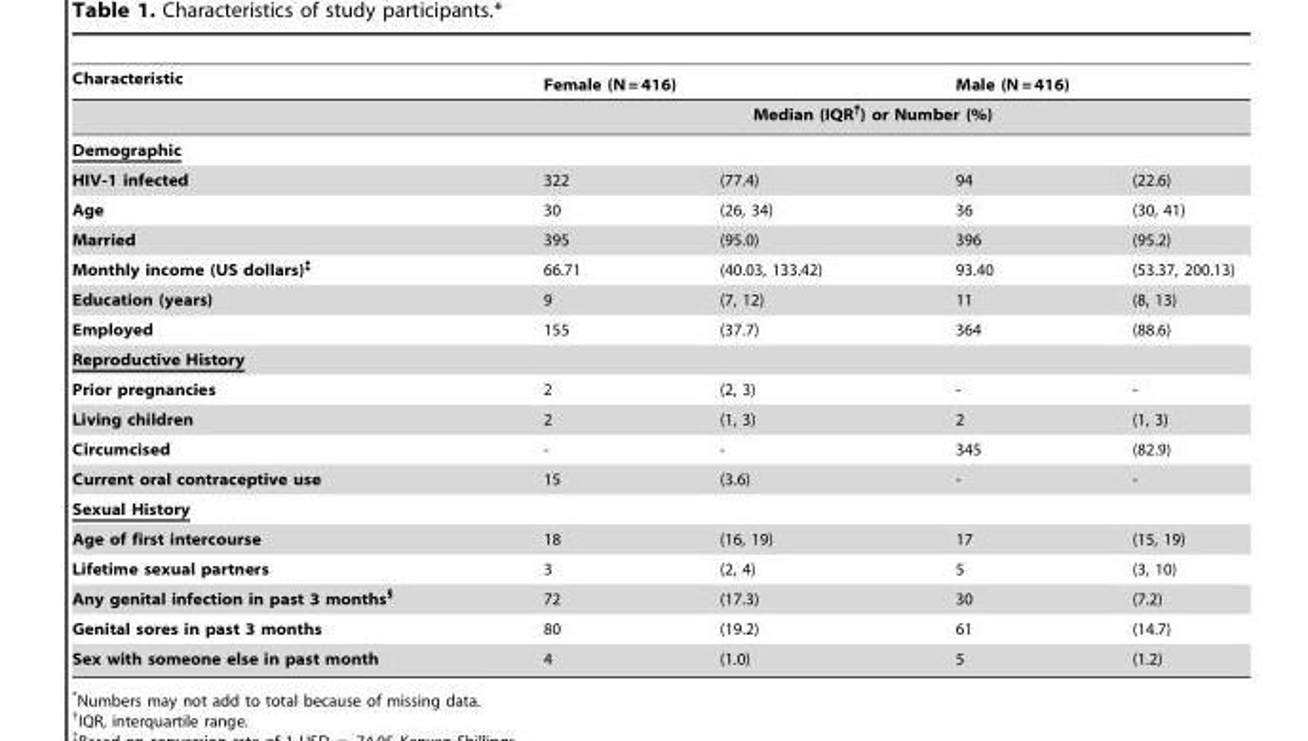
<table><thead><tr><td rowspan="2">Characteristic</td><td colspan="2">Female (N = 416)</td><td colspan="2">Male (N = 416)</td></tr><tr><td colspan="4">Median (IQR†) or Number (%)</td></tr><tr><td colspan="5">Demographic</td></tr><tr><td>HIV-1 infected</td><td>322</td><td>(77.4)</td><td>94</td><td>(22.6)</td></tr></thead><tbody><tr><td>Age</td><td>30</td><td>(26, 34)</td><td>36</td><td>(30, 41)</td></tr><tr><td>Married</td><td>395</td><td>(95.0)</td><td>396</td><td>(95.2)</td></tr><tr><td>Monthly income (US dollars)‡</td><td>66.71</td><td>(40.03, 133.42)</td><td>93.40</td><td>(53.37, 200.13)</td></tr><tr><td>Education (years)</td><td>9</td><td>(7, 12)</td><td>11</td><td>(8, 13)</td></tr><tr><td>Employed</td><td>155</td><td>(37.7)</td><td>364</td><td>(88.6)</td></tr><tr><td colspan="5">Reproductive History</td></tr><tr><td>Prior pregnancies</td><td>2</td><td>(2, 3)</td><td>-</td><td>-</td></tr><tr><td>Living children</td><td>2</td><td>(1, 3)</td><td>2</td><td>(1, 3)</td></tr><tr><td>Circumcised</td><td>-</td><td>-</td><td>345</td><td>(82.9)</td></tr><tr><td>Current oral contraceptive use</td><td>15</td><td>(3.6)</td><td>-</td><td>-</td></tr><tr><td colspan="5">Sexual History</td></tr><tr><td>Age of first intercourse</td><td>18</td><td>(16, 19)</td><td>17</td><td>(15, 19)</td></tr><tr><td>Lifetime sexual partners</td><td>3</td><td>(2, 4)</td><td>5</td><td>(3, 10)</td></tr><tr><td>Any genital infection in past 3 months§</td><td>72</td><td>(17.3)</td><td>30</td><td>(7.2)</td></tr><tr><td>Genital sores in past 3 months</td><td>80</td><td>(19.2)</td><td>61</td><td>(14.7)</td></tr><tr><td>Sex with someone else in past month</td><td>4</td><td>(1.0)</td><td>5</td><td>(1.2)</td></tr></tbody></table>